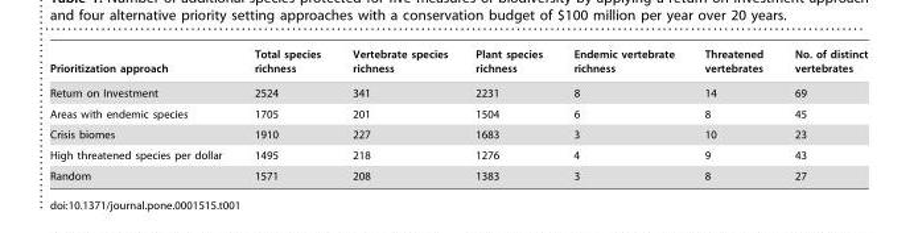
<table><thead><tr><td>Prioritization approach</td><td>Total species richness</td><td>Vertebrate species richness</td><td>Plant species richness</td><td>Endemic vertebrate richness</td><td>Threatened vertebrates</td><td>No. of distinct vertebrates</td></tr></thead><tbody><tr><td>Return on Investment</td><td>2524</td><td>341</td><td>2231</td><td>8</td><td>14</td><td>69</td></tr><tr><td>Areas with endemic species</td><td>1705</td><td>201</td><td>1504</td><td>6</td><td>8</td><td>45</td></tr><tr><td>Crisis biomes</td><td>1910</td><td>227</td><td>1683</td><td>3</td><td>10</td><td>23</td></tr><tr><td>High threatened species per dollar</td><td>1495</td><td>218</td><td>1276</td><td>4</td><td>9</td><td>43</td></tr><tr><td>Random</td><td>1571</td><td>208</td><td>1383</td><td>3</td><td>8</td><td>27</td></tr></tbody></table>